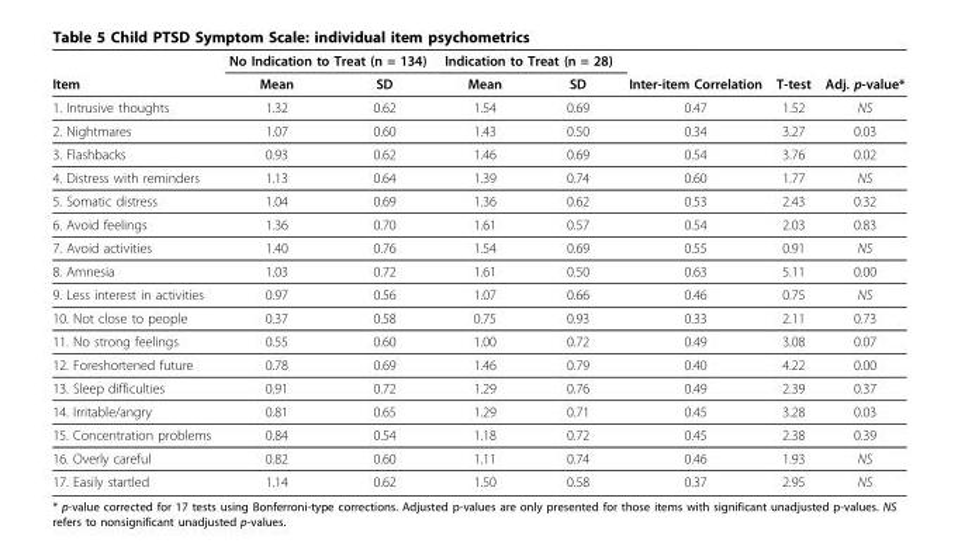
<table><thead><tr><td rowspan="2">Item</td><td colspan="2">No Indication to Treat (n = 134)</td><td colspan="2">Indication to Treat (n = 28)</td><td rowspan="2">Inter-item Correlation</td><td rowspan="2">T-test</td><td rowspan="2">Adj. p-value*</td></tr><tr><td>Mean</td><td>SD</td><td>Mean</td><td>SD</td></tr></thead><tbody><tr><td>1. Intrusive thoughts</td><td>1.32</td><td>0.62</td><td>1.54</td><td>0.69</td><td>0.47</td><td>1.52</td><td>NS</td></tr><tr><td>2. Nightmares</td><td>1.07</td><td>0.60</td><td>1.43</td><td>0.50</td><td>0.34</td><td>3.27</td><td>0.03</td></tr><tr><td>3. Flashbacks</td><td>0.93</td><td>0.62</td><td>1.46</td><td>0.69</td><td>0.54</td><td>3.76</td><td>0.02</td></tr><tr><td>4. Distress with reminders</td><td>1.13</td><td>0.64</td><td>1.39</td><td>0.74</td><td>0.60</td><td>1.77</td><td>NS</td></tr><tr><td>5. Somatic distress</td><td>1.04</td><td>0.69</td><td>1.36</td><td>0.62</td><td>0.53</td><td>2.43</td><td>0.32</td></tr><tr><td>6. Avoid feelings</td><td>1.36</td><td>0.70</td><td>1.61</td><td>0.57</td><td>0.54</td><td>2.03</td><td>0.83</td></tr><tr><td>7. Avoid activities</td><td>1.40</td><td>0.76</td><td>1.54</td><td>0.69</td><td>0.55</td><td>0.91</td><td>NS</td></tr><tr><td>8. Amnesia</td><td>1.03</td><td>0.72</td><td>1.61</td><td>0.50</td><td>0.63</td><td>5.11</td><td>0.00</td></tr><tr><td>9. Less interest in activities</td><td>0.97</td><td>0.56</td><td>1.07</td><td>0.66</td><td>0.46</td><td>0.75</td><td>NS</td></tr><tr><td>10. Not close to people</td><td>0.37</td><td>0.58</td><td>0.75</td><td>0.93</td><td>0.33</td><td>2.11</td><td>0.73</td></tr><tr><td>11. No strong feelings</td><td>0.55</td><td>0.60</td><td>1.00</td><td>0.72</td><td>0.49</td><td>3.08</td><td>0.07</td></tr><tr><td>12. Foreshortened future</td><td>0.78</td><td>0.69</td><td>1.46</td><td>0.79</td><td>0.40</td><td>4.22</td><td>0.00</td></tr><tr><td>13. Sleep difficulties</td><td>0.91</td><td>0.72</td><td>1.29</td><td>0.76</td><td>0.49</td><td>2.39</td><td>0.37</td></tr><tr><td>14. Irritable/angry</td><td>0.81</td><td>0.65</td><td>1.29</td><td>0.71</td><td>0.45</td><td>3.28</td><td>0.03</td></tr><tr><td>15. Concentration problems</td><td>0.84</td><td>0.54</td><td>1.18</td><td>0.72</td><td>0.45</td><td>2.38</td><td>0.39</td></tr><tr><td>16. Overly careful</td><td>0.82</td><td>0.60</td><td>1.11</td><td>0.74</td><td>0.46</td><td>1.93</td><td>NS</td></tr><tr><td>17. Easily startled</td><td>1.14</td><td>0.62</td><td>1.50</td><td>0.58</td><td>0.37</td><td>2.95</td><td>NS</td></tr></tbody></table>